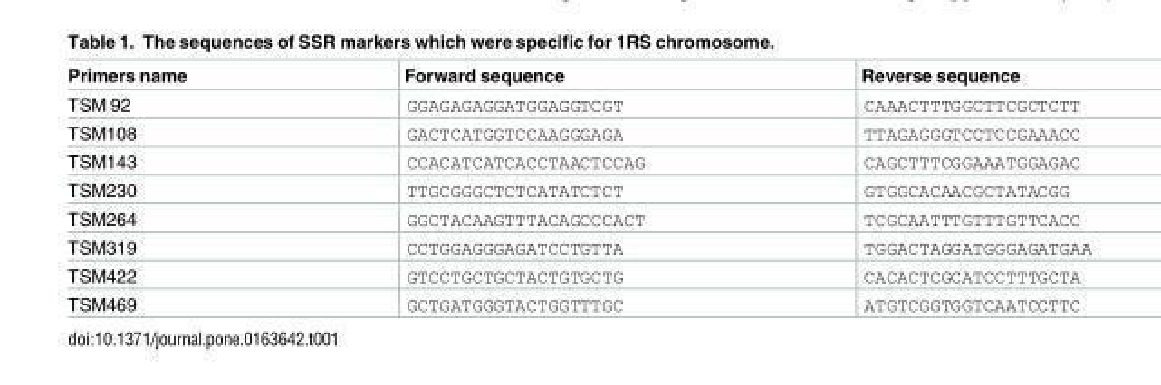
<table><thead><tr><td>Primers name</td><td>Forward sequence</td><td>Reverse sequence</td></tr></thead><tbody><tr><td>TSM 92</td><td>GGAGAGAGGATGGAGGTCGT</td><td>CAAACTTTGGCTTCGCTCTT</td></tr><tr><td>TSM108</td><td>GACTCATGGTCCAAGGGAGA</td><td>TTAGAGGGTCCTCCGAAACC</td></tr><tr><td>TSM143</td><td>CCACATCATCACCTAACTCCAG</td><td>CAGCTTTCGGAAATGGAGAC</td></tr><tr><td>TSM230</td><td>TTGCGGGCTCTCATATCTCT</td><td>GTGGCACAACGCTATACGG</td></tr><tr><td>TSM264</td><td>GGCTACAAGTTTACAGCCCACT</td><td>TCGCAATTTGTTTGTTCACC</td></tr><tr><td>TSM319</td><td>CCTGGAGGGAGATCCTGTTA</td><td>TGGACTAGGATGGGAGATGAA</td></tr><tr><td>TSM422</td><td>GTCCTGCTGCTACTGTGCTG</td><td>CACACTCGCATCCTTTGCTA</td></tr><tr><td>TSM469</td><td>GCTGATGGGTACTGGTTTGC</td><td>ATGTCGGTGGTCAATCCTTC</td></tr></tbody></table>